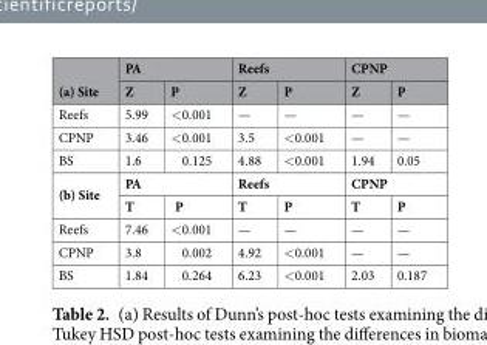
<table><thead><tr><td rowspan="2">(a) Site</td><td colspan="2">PA</td><td colspan="2">Reefs</td><td colspan="2">CPNP</td></tr><tr><td>Z</td><td>P</td><td>Z</td><td>P</td><td>Z</td><td>P</td></tr></thead><tbody><tr><td>Reefs</td><td>5.99</td><td>&lt;0.001</td><td>—</td><td>—</td><td>—</td><td>—</td></tr><tr><td>CPNP</td><td>3.46</td><td>&lt;0.001</td><td>3.5</td><td>&lt;0.001</td><td>—</td><td>—</td></tr><tr><td>BS</td><td>1.6</td><td>0.125</td><td>4.88</td><td>&lt;0.001</td><td>1.94</td><td>0.05</td></tr><tr><td rowspan="2">(b) Site</td><td colspan="2">PA</td><td colspan="2">Reefs</td><td colspan="2">CPNP</td></tr><tr><td>T</td><td>P</td><td>T</td><td>P</td><td>T</td><td>P</td></tr><tr><td>Reefs</td><td>7.46</td><td>&lt;0.001</td><td>—</td><td>—</td><td>—</td><td>—</td></tr><tr><td>CPNP</td><td>3.8</td><td>0.002</td><td>4.92</td><td>&lt;0.001</td><td>—</td><td>—</td></tr><tr><td>BS</td><td>1.84</td><td>0.264</td><td>6.23</td><td>&lt;0.001</td><td>2.03</td><td>0.187</td></tr></tbody></table>